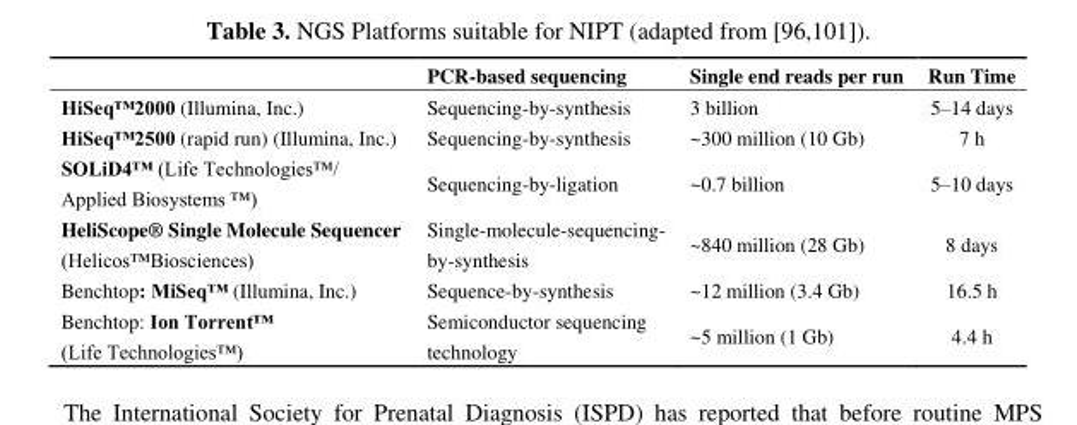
<table><thead><tr><td></td><td>PCR-based sequencing</td><td>Single end reads per run</td><td>Run Time</td></tr></thead><tbody><tr><td>HiSeq™2000 (Illumina, Inc.)</td><td>Sequencing-by-synthesis</td><td>3 billion</td><td>5–14 days</td></tr><tr><td>HiSeq™2500 (rapid run) (Illumina, Inc.)</td><td>Sequencing-by-synthesis</td><td>~300 million (10 Gb)</td><td>7 h</td></tr><tr><td>SOLiD4™ (Life Technologies™/ Applied Biosystems ™)</td><td>Sequencing-by-ligation</td><td>~0.7 billion</td><td>5–10 days</td></tr><tr><td>HeliScope® Single Molecule Sequencer (Helicos™Biosciences)</td><td>Single-molecule-sequencing- by-synthesis</td><td>~840 million (28 Gb)</td><td>8 days</td></tr><tr><td>Benchtop: MiSeq™ (Illumina, Inc.)</td><td>Sequence-by-synthesis</td><td>~12 million (3.4 Gb)</td><td>16.5 h</td></tr><tr><td>Benchtop: Ion Torrent™ (Life Technologies™)</td><td>Semiconductor sequencing technology</td><td>~5 million (1 Gb)</td><td>4.4 h</td></tr></tbody></table>